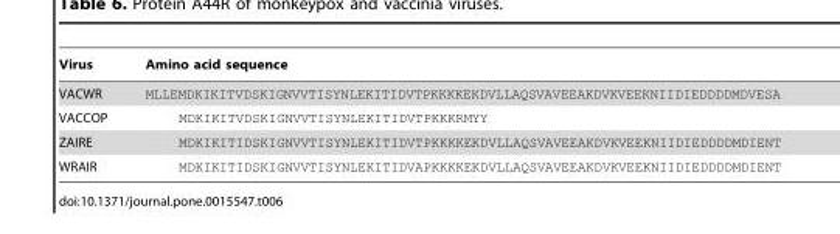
<table><thead><tr><td>Virus</td><td>Amino acid sequence</td></tr></thead><tbody><tr><td>VACWR</td><td>MLLEMDKIKITVDSKIGNVVTISYNLEKITIDVTPKKKKEKDVLLAQSVAVEEAKDVKVEEKNIIDIEDDDDMDVESA</td></tr><tr><td>VACCOP</td><td>MDKIKITVDSKIGNVVTISYNLEKITIDVTPKKKRMYY</td></tr><tr><td>ZAIRE</td><td>MDKIKITIDSKIGNVVTISYNLEKITIDVTPKKKKEKDVLLAQSVAVEEAKDVKVEEKNIIDIEDDDDMDIENT</td></tr><tr><td>WRAIR</td><td>MDKIKITIDSKIGNVVTISYNLEKITIDVAPKKKKEKDVLLAQSVAVEEAKDVKVEEKNIIDIEDDDDMDIENT</td></tr></tbody></table>